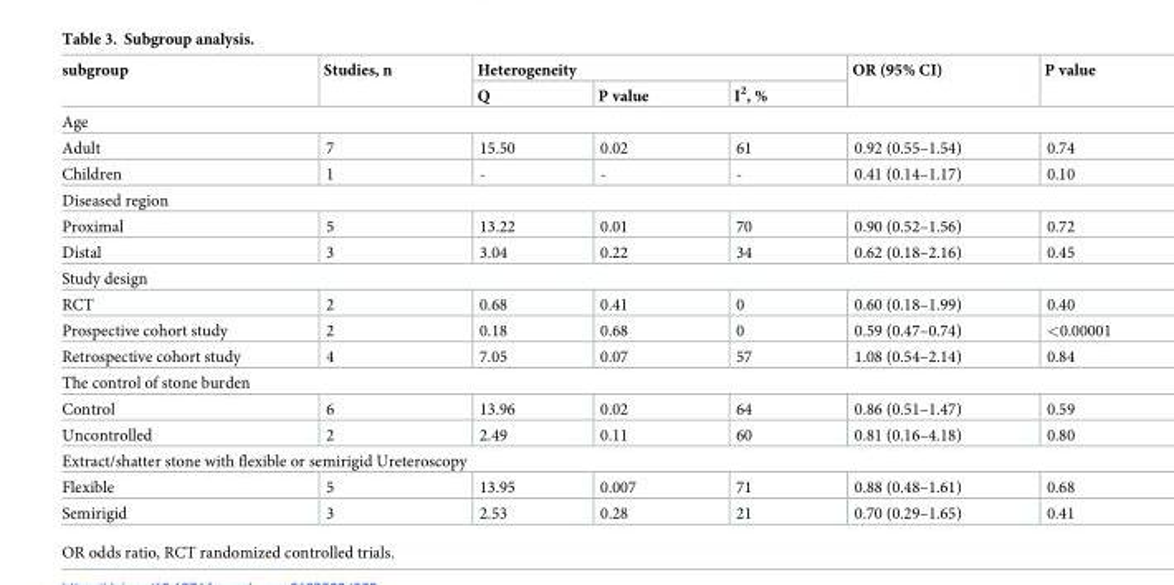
<table><thead><tr><td rowspan="2">subgroup</td><td rowspan="2">Studies, n</td><td colspan="3">Heterogeneity</td><td rowspan="2">OR (95% CI)</td><td rowspan="2">P value</td></tr><tr><td>Q</td><td>P value</td><td>I<sup>2</sup>, %</td></tr></thead><tbody><tr><td colspan="7">Age</td></tr><tr><td>Adult</td><td>7</td><td>15.50</td><td>0.02</td><td>61</td><td>0.92 (0.55–1.54)</td><td>0.74</td></tr><tr><td>Children</td><td>1</td><td>-</td><td>-</td><td>-</td><td>0.41 (0.14–1.17)</td><td>0.10</td></tr><tr><td colspan="7">Diseased region</td></tr><tr><td>Proximal</td><td>5</td><td>13.22</td><td>0.01</td><td>70</td><td>0.90 (0.52–1.56)</td><td>0.72</td></tr><tr><td>Distal</td><td>3</td><td>3.04</td><td>0.22</td><td>34</td><td>0.62 (0.18–2.16)</td><td>0.45</td></tr><tr><td colspan="7">Study design</td></tr><tr><td>RCT</td><td>2</td><td>0.68</td><td>0.41</td><td>0</td><td>0.60 (0.18–1.99)</td><td>0.40</td></tr><tr><td>Prospective cohort study</td><td>2</td><td>0.18</td><td>0.68</td><td>0</td><td>0.59 (0.47–0.74)</td><td>&lt;0.00001</td></tr><tr><td>Retrospective cohort study</td><td>4</td><td>7.05</td><td>0.07</td><td>57</td><td>1.08 (0.54–2.14)</td><td>0.84</td></tr><tr><td colspan="7">The control of stone burden</td></tr><tr><td>Control</td><td>6</td><td>13.96</td><td>0.02</td><td>64</td><td>0.86 (0.51–1.47)</td><td>0.59</td></tr><tr><td>Uncontrolled</td><td>2</td><td>2.49</td><td>0.11</td><td>60</td><td>0.81 (0.16–4.18)</td><td>0.80</td></tr><tr><td colspan="7">Extract/shatter stone with flexible or semirigid Ureteroscopy</td></tr><tr><td>Flexible</td><td>5</td><td>13.95</td><td>0.007</td><td>71</td><td>0.88 (0.48–1.61)</td><td>0.68</td></tr><tr><td>Semirigid</td><td>3</td><td>2.53</td><td>0.28</td><td>21</td><td>0.70 (0.29–1.65)</td><td>0.41</td></tr></tbody></table>